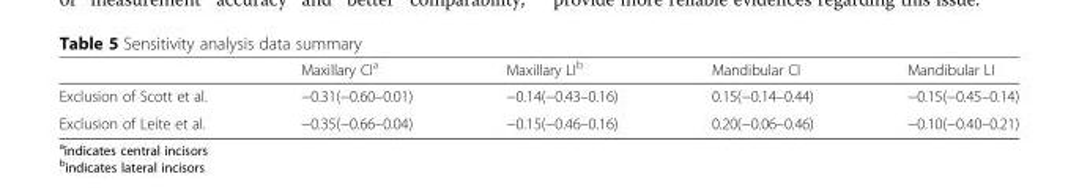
<table><thead><tr><td></td><td>Maxillary CI<sup>a</sup></td><td>Maxillary LI<sup>b</sup></td><td>Mandibular CI</td><td>Mandibular LI</td></tr></thead><tbody><tr><td>Exclusion of Scott et al.</td><td>−0.31(−0.60–0.01)</td><td>−0.14(−0.43–0.16)</td><td>0.15(−0.14–0.44)</td><td>−0.15(−0.45–0.14)</td></tr><tr><td>Exclusion of Leite et al.</td><td>−0.35(−0.66–0.04)</td><td>−0.15(−0.46–0.16)</td><td>0.20(−0.06–0.46)</td><td>−0.10(−0.40–0.21)</td></tr></tbody></table>